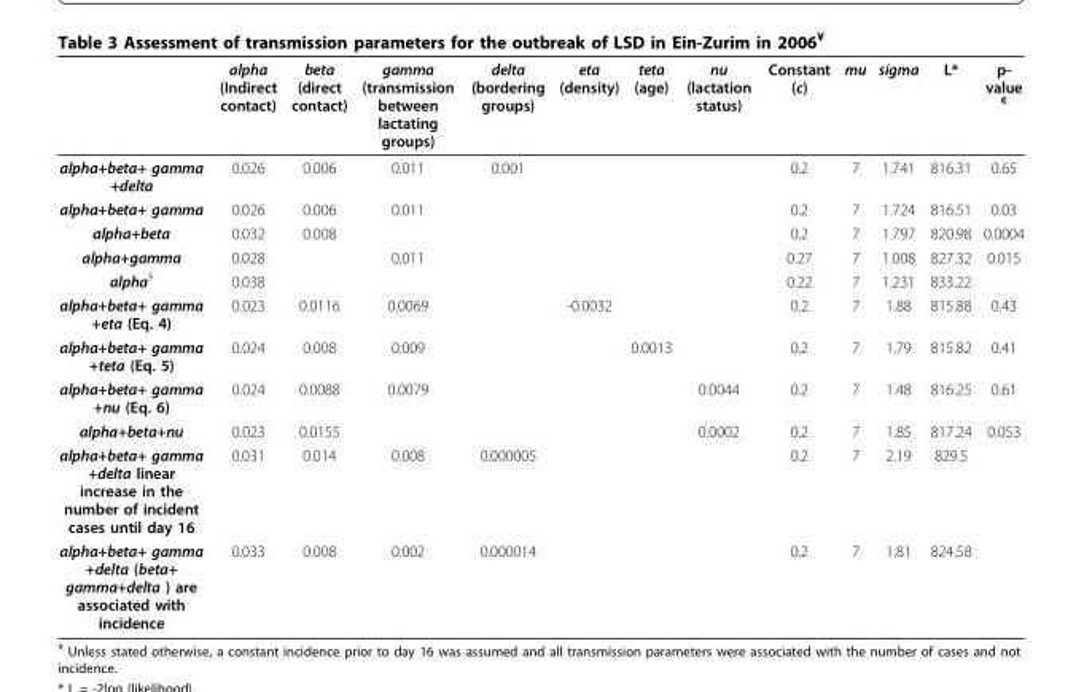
<table><thead><tr><td></td><td>alpha (Indirect contact)</td><td>beta (direct contact)</td><td>gamma (transmission between lactating groups)</td><td>delta (bordering groups)</td><td>eta (density)</td><td>teta (age)</td><td>nu (lactation status)</td><td>Constant (c)</td><td>mu</td><td>sigma</td><td>L*</td><td>p- value <sup>€</sup></td></tr></thead><tbody><tr><td>alpha+beta+ gamma +delta</td><td>0.026</td><td>0.006</td><td>0.011</td><td>0.001</td><td></td><td></td><td></td><td>0.2</td><td>7</td><td>1.741</td><td>816.31</td><td>0.65</td></tr><tr><td>alpha+beta+ gamma</td><td>0.026</td><td>0.006</td><td>0.011</td><td></td><td></td><td></td><td></td><td>0.2</td><td>7</td><td>1.724</td><td>816.51</td><td>0.03</td></tr><tr><td>alpha+beta</td><td>0.032</td><td>0.008</td><td></td><td></td><td></td><td></td><td></td><td>0.2</td><td>7</td><td>1.797</td><td>820.98</td><td>0.0004</td></tr><tr><td>alpha+gamma</td><td>0.028</td><td></td><td>0.011</td><td></td><td></td><td></td><td></td><td>0.27</td><td>7</td><td>1.008</td><td>827.32</td><td>0.015</td></tr><tr><td>alpha<sup>§</sup></td><td>0.038</td><td></td><td></td><td></td><td></td><td></td><td></td><td>0.22</td><td>7</td><td>1.231</td><td>833.22</td><td></td></tr><tr><td>alpha+beta+ gamma +eta (Eq. 4)</td><td>0.023</td><td>0.0116</td><td>0.0069</td><td></td><td>-0.0032</td><td></td><td></td><td>0.2</td><td>7</td><td>1.88</td><td>815.88</td><td>0.43</td></tr><tr><td>alpha+beta+ gamma +teta (Eq. 5)</td><td>0.024</td><td>0.008</td><td>0.009</td><td></td><td></td><td>0.0013</td><td></td><td>0.2</td><td>7</td><td>1.79</td><td>815.82</td><td>0.41</td></tr><tr><td>alpha+beta+ gamma +nu (Eq. 6)</td><td>0.024</td><td>0.0088</td><td>0.0079</td><td></td><td></td><td></td><td>0.0044</td><td>0.2</td><td>7</td><td>1.48</td><td>816.25</td><td>0.61</td></tr><tr><td>alpha+beta+nu</td><td>0.023</td><td>0.0155</td><td></td><td></td><td></td><td></td><td>0.0002</td><td>0.2</td><td>7</td><td>1.85</td><td>817.24</td><td>0.053</td></tr><tr><td>alpha+beta+ gamma +delta linear increase in the number of incident cases until day 16</td><td>0.031</td><td>0.014</td><td>0.008</td><td>0.000005</td><td></td><td></td><td></td><td>0.2</td><td>7</td><td>2.19</td><td>829.5</td><td></td></tr><tr><td>alpha+beta+ gamma +delta (beta+ gamma+delta ) are associated with incidence</td><td>0.033</td><td>0.008</td><td>0.002</td><td>0.000014</td><td></td><td></td><td></td><td>0.2</td><td>7</td><td>1.81</td><td>824.58</td><td></td></tr></tbody></table>